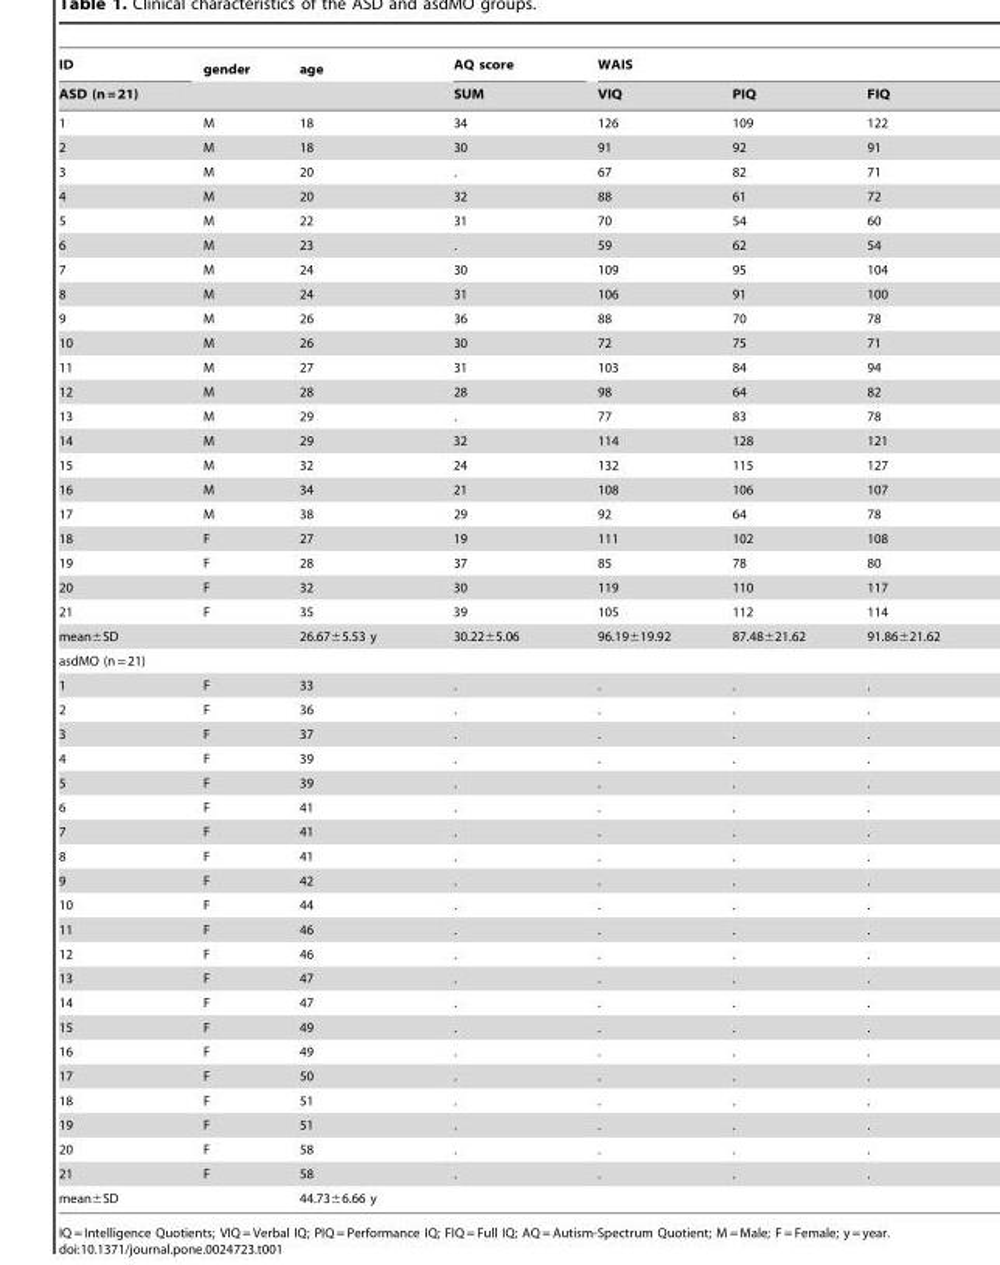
<table><thead><tr><td rowspan="2">ID ASD (n = 21)</td><td rowspan="2">gender</td><td rowspan="2">age</td><td rowspan="2">AQ score SUM</td><td colspan="3">WAIS</td></tr><tr><td>VIQ</td><td>PIQ</td><td>FIQ</td></tr></thead><tbody><tr><td>1</td><td>M</td><td>18</td><td>34</td><td>126</td><td>109</td><td>122</td></tr><tr><td>2</td><td>M</td><td>18</td><td>30</td><td>91</td><td>92</td><td>91</td></tr><tr><td>3</td><td>M</td><td>20</td><td>.</td><td>67</td><td>82</td><td>71</td></tr><tr><td>4</td><td>M</td><td>20</td><td>32</td><td>88</td><td>61</td><td>72</td></tr><tr><td>5</td><td>M</td><td>22</td><td>31</td><td>70</td><td>54</td><td>60</td></tr><tr><td>6</td><td>M</td><td>23</td><td>.</td><td>59</td><td>62</td><td>54</td></tr><tr><td>7</td><td>M</td><td>24</td><td>30</td><td>109</td><td>95</td><td>104</td></tr><tr><td>8</td><td>M</td><td>24</td><td>31</td><td>106</td><td>91</td><td>100</td></tr><tr><td>9</td><td>M</td><td>26</td><td>36</td><td>88</td><td>70</td><td>78</td></tr><tr><td>10</td><td>M</td><td>26</td><td>30</td><td>72</td><td>75</td><td>71</td></tr><tr><td>11</td><td>M</td><td>27</td><td>31</td><td>103</td><td>84</td><td>94</td></tr><tr><td>12</td><td>M</td><td>28</td><td>28</td><td>98</td><td>64</td><td>82</td></tr><tr><td>13</td><td>M</td><td>29</td><td>.</td><td>77</td><td>83</td><td>78</td></tr><tr><td>14</td><td>M</td><td>29</td><td>32</td><td>114</td><td>128</td><td>121</td></tr><tr><td>15</td><td>M</td><td>32</td><td>24</td><td>132</td><td>115</td><td>127</td></tr><tr><td>16</td><td>M</td><td>34</td><td>21</td><td>108</td><td>106</td><td>107</td></tr><tr><td>17</td><td>M</td><td>38</td><td>29</td><td>92</td><td>64</td><td>78</td></tr><tr><td>18</td><td>F</td><td>27</td><td>19</td><td>111</td><td>102</td><td>108</td></tr><tr><td>19</td><td>F</td><td>28</td><td>37</td><td>85</td><td>78</td><td>80</td></tr><tr><td>20</td><td>F</td><td>32</td><td>30</td><td>119</td><td>110</td><td>117</td></tr><tr><td>21</td><td>F</td><td>35</td><td>39</td><td>105</td><td>112</td><td>114</td></tr><tr><td>mean±SD</td><td></td><td>26.67±5.53 y</td><td>30.22±5.06</td><td>96.19±19.92</td><td>87.48±21.62</td><td>91.86±21.62</td></tr><tr><td colspan="7">asdMO (n = 21)</td></tr><tr><td>1</td><td>F</td><td>33</td><td>.</td><td>.</td><td>.</td><td>.</td></tr><tr><td>2</td><td>F</td><td>36</td><td>.</td><td>.</td><td>.</td><td>.</td></tr><tr><td>3</td><td>F</td><td>37</td><td>.</td><td>.</td><td>.</td><td>.</td></tr><tr><td>4</td><td>F</td><td>39</td><td>.</td><td>.</td><td>.</td><td>.</td></tr><tr><td>5</td><td>F</td><td>39</td><td>.</td><td>.</td><td>.</td><td>.</td></tr><tr><td>6</td><td>F</td><td>41</td><td>.</td><td>.</td><td>.</td><td>.</td></tr><tr><td>7</td><td>F</td><td>41</td><td>.</td><td>.</td><td>.</td><td>.</td></tr><tr><td>8</td><td>F</td><td>41</td><td>.</td><td>.</td><td>.</td><td>.</td></tr><tr><td>9</td><td>F</td><td>42</td><td>.</td><td>.</td><td>.</td><td>.</td></tr><tr><td>10</td><td>F</td><td>44</td><td>.</td><td>.</td><td>.</td><td>.</td></tr><tr><td>11</td><td>F</td><td>46</td><td>.</td><td>.</td><td>.</td><td>.</td></tr><tr><td>12</td><td>F</td><td>46</td><td>.</td><td>.</td><td>.</td><td>.</td></tr><tr><td>13</td><td>F</td><td>47</td><td>.</td><td>.</td><td>.</td><td>.</td></tr><tr><td>14</td><td>F</td><td>47</td><td>.</td><td>.</td><td>.</td><td>.</td></tr><tr><td>15</td><td>F</td><td>49</td><td>.</td><td>.</td><td>.</td><td>.</td></tr><tr><td>16</td><td>F</td><td>49</td><td>.</td><td>.</td><td>.</td><td>.</td></tr><tr><td>17</td><td>F</td><td>50</td><td>.</td><td>.</td><td>.</td><td>.</td></tr><tr><td>18</td><td>F</td><td>51</td><td>.</td><td>.</td><td>.</td><td>.</td></tr><tr><td>19</td><td>F</td><td>51</td><td>.</td><td>.</td><td>.</td><td>.</td></tr><tr><td>20</td><td>F</td><td>58</td><td>.</td><td>.</td><td>.</td><td>.</td></tr><tr><td>21</td><td>F</td><td>58</td><td>.</td><td>.</td><td>.</td><td>.</td></tr><tr><td>mean±SD</td><td></td><td>44.73±6.66 y</td><td></td><td></td><td></td><td></td></tr></tbody></table>